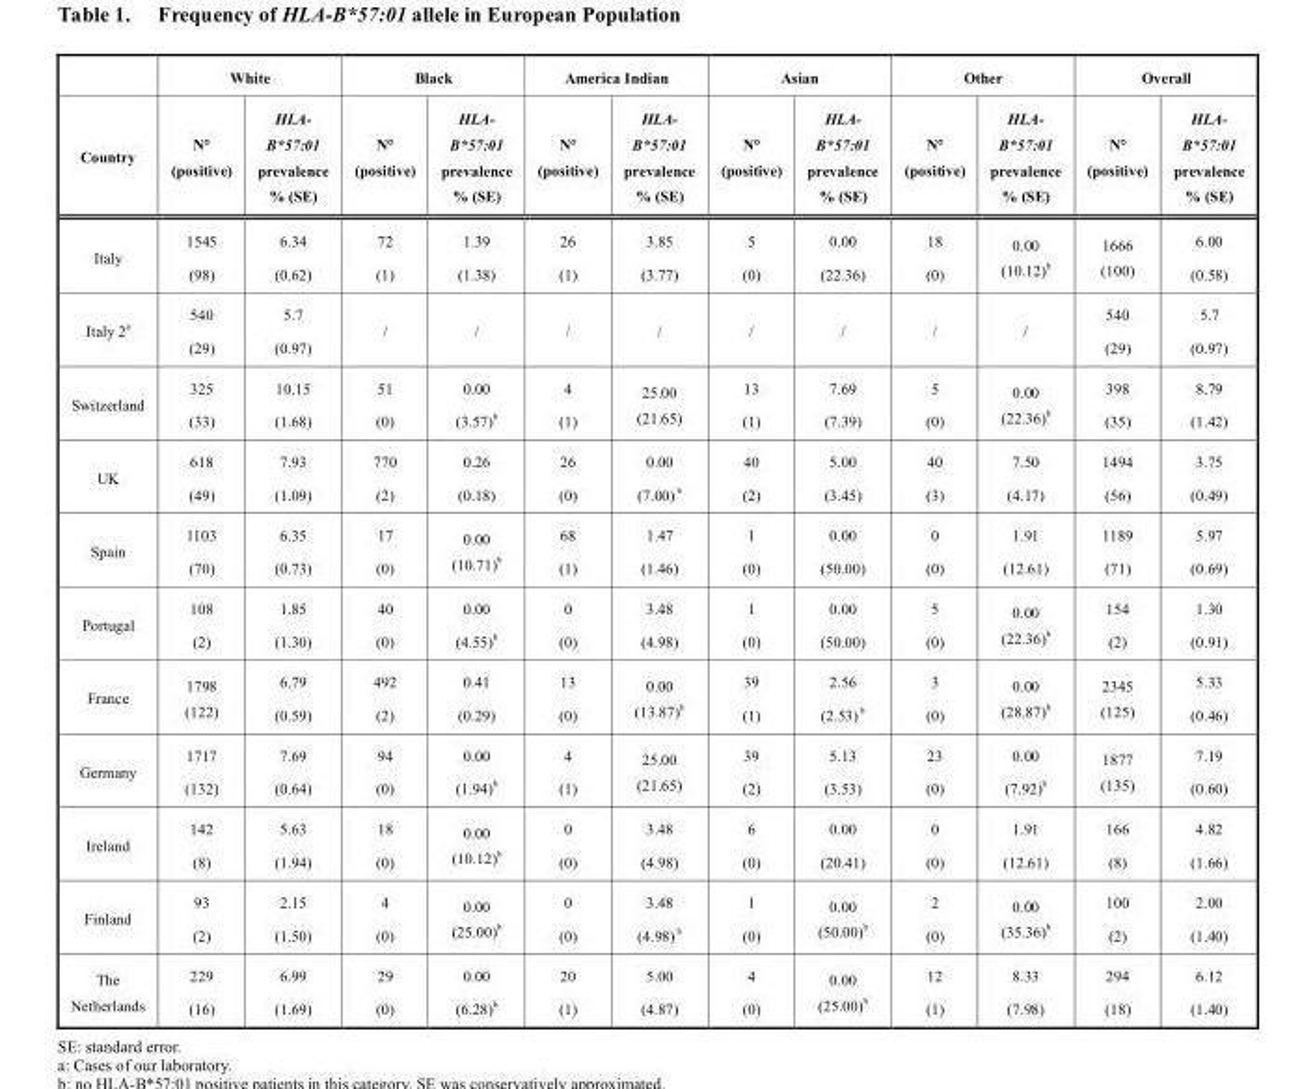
<table><thead><tr><td rowspan="2">Country</td><td colspan="2">White</td><td colspan="2">Black</td><td colspan="2">America Indian</td><td colspan="2">Asian</td><td colspan="2">Other</td><td colspan="2">Overall</td></tr><tr><td>N° (positive)</td><td>HLA- B*57:01 prevalence % (SE)</td><td>N° (positive)</td><td>HLA- B*57:01 prevalence % (SE)</td><td>N° (positive)</td><td>HLA- B*57:01 prevalence % (SE)</td><td>N° (positive)</td><td>HLA- B*57:01 prevalence % (SE)</td><td>N° (positive)</td><td>HLA- B*57:01 prevalence % (SE)</td><td>N° (positive)</td><td>HLA- B*57:01 prevalence % (SE)</td></tr></thead><tbody><tr><td>Italy</td><td>1545 (98)</td><td>6.34 (0.62)</td><td>72 (1)</td><td>1.39 (1.38)</td><td>26 (1)</td><td>3.85 (3.77)</td><td>5 (0)</td><td>0.00 (22.36)</td><td>18 (0)</td><td>0.00 (10.12) <sup>b</sup></td><td>1666 (100)</td><td>6.00 (0.58)</td></tr><tr><td>Italy 2 <sup>a</sup></td><td>540 (29)</td><td>5.7 (0.97)</td><td>/</td><td>/</td><td>/</td><td>/</td><td>/</td><td>/</td><td>/</td><td>/</td><td>540 (29)</td><td>5.7 (0.97)</td></tr><tr><td>Switzerland</td><td>325 (33)</td><td>10.15 (1.68)</td><td>51 (0)</td><td>0.00 (3.57) <sup>b</sup></td><td>4 (1)</td><td>25.00 (21.65)</td><td>13 (1)</td><td>7.69 (7.39)</td><td>5 (0)</td><td>0.00 (22.36) <sup>b</sup></td><td>398 (35)</td><td>8.79 (1.42)</td></tr><tr><td>UK</td><td>618 (49)</td><td>7.93 (1.09)</td><td>770 (2)</td><td>0.26 (0.18)</td><td>26 (0)</td><td>0.00 (7.00) b</td><td>40 (2)</td><td>5.00 (3.45)</td><td>40 (3)</td><td>7.50 (4.17)</td><td>1494 (56)</td><td>3.75 (0.49)</td></tr><tr><td>Spain</td><td>1103 (70)</td><td>6.35 (0.73)</td><td>17 (0)</td><td>0.00 (10.71) <sup>b</sup></td><td>68 (1)</td><td>1.47 (1.46)</td><td>1 (0)</td><td>0.00 (50.00)</td><td>0 (0)</td><td>1.91 (12.61)</td><td>1189 (71)</td><td>5.97 (0.69)</td></tr><tr><td>Portugal</td><td>108 (2)</td><td>1.85 (1.30)</td><td>40 (0)</td><td>0.00 (4.55) <sup>b</sup></td><td>0 (0)</td><td>3.48 (4.98)</td><td>1 (0)</td><td>0.00 (50.00)</td><td>5 (0)</td><td>0.00 (22.36) <sup>b</sup></td><td>154 (2)</td><td>1.30 (0.91)</td></tr><tr><td>France</td><td>1798 (122)</td><td>6.79 (0.59)</td><td>492 (2)</td><td>0.41 (0.29)</td><td>13 (0)</td><td>0.00 (13.87) <sup>b</sup></td><td>39 (1)</td><td>2.56 (2.53) b</td><td>3 (0)</td><td>0.00 (28.87) <sup>b</sup></td><td>2345 (125)</td><td>5.33 (0.46)</td></tr><tr><td>Germany</td><td>1717 (132)</td><td>7.69 (0.64)</td><td>94 (0)</td><td>0.00 (1.94) <sup>b</sup></td><td>4 (1)</td><td>25.00 (21.65)</td><td>39 (2)</td><td>5.13 (3.53)</td><td>23 (0)</td><td>0.00 (7.92) <sup>b</sup></td><td>1877 (135)</td><td>7.19 (0.60)</td></tr><tr><td>Ireland</td><td>142 (8)</td><td>5.63 (1.94)</td><td>18 (0)</td><td>0.00 (10.12) <sup>b</sup></td><td>0 (0)</td><td>3.48 (4.98)</td><td>6 (0)</td><td>0.00 (20.41)</td><td>0 (0)</td><td>1.91 (12.61)</td><td>166 (8)</td><td>4.82 (1.66)</td></tr><tr><td>Finland</td><td>93 (2)</td><td>2.15 (1.50)</td><td>4 (0)</td><td>0.00 (25.00) <sup>b</sup></td><td>0 (0)</td><td>3.48 (4.98) b</td><td>1 (0)</td><td>0.00 (50.00) <sup>b</sup></td><td>2 (0)</td><td>0.00 (35.36) <sup>b</sup></td><td>100 (2)</td><td>2.00 (1.40)</td></tr><tr><td>The Netherlands</td><td>229 (16)</td><td>6.99 (1.69)</td><td>29 (0)</td><td>0.00 (6.28) <sup>b</sup></td><td>20 (1)</td><td>5.00 (4.87)</td><td>4 (0)</td><td>0.00 (25.00) <sup>b</sup></td><td>12 (1)</td><td>8.33 (7.98)</td><td>294 (18)</td><td>6.12 (1.40)</td></tr></tbody></table>